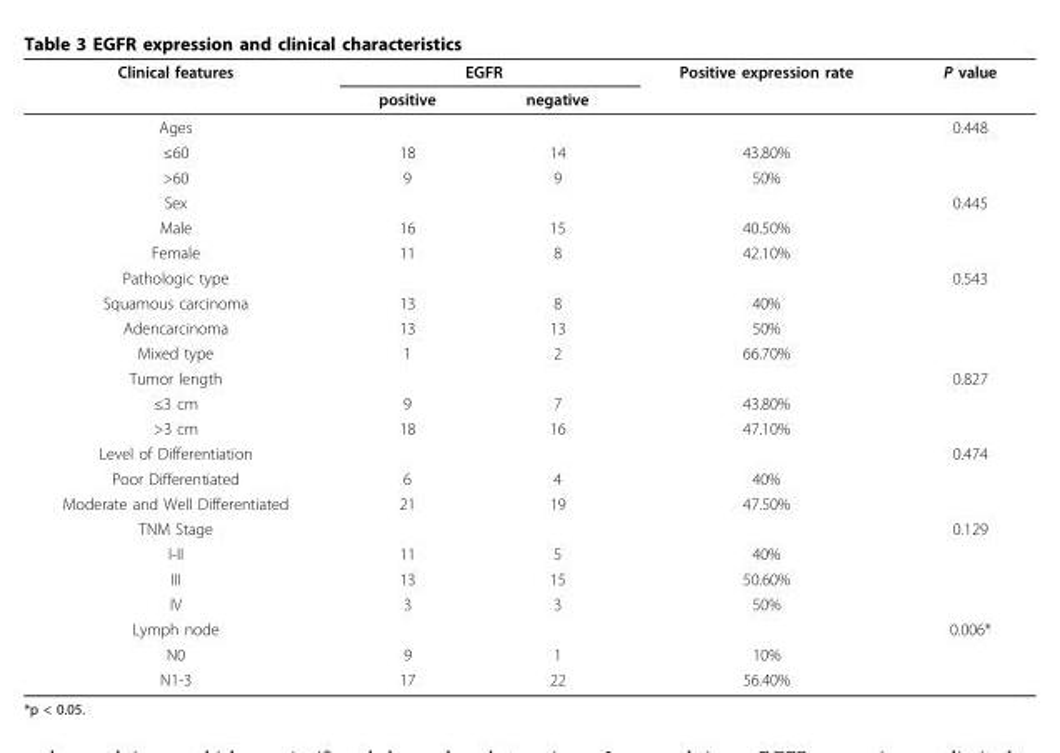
<table><thead><tr><td rowspan="2">Clinical features</td><td colspan="2">EGFR</td><td rowspan="2">Positive expression rate</td><td rowspan="2">P value</td></tr><tr><td>positive</td><td>negative</td></tr></thead><tbody><tr><td>Ages</td><td></td><td></td><td></td><td>0.448</td></tr><tr><td>≤60</td><td>18</td><td>14</td><td>43.80%</td><td></td></tr><tr><td>&gt;60</td><td>9</td><td>9</td><td>50%</td><td></td></tr><tr><td>Sex</td><td></td><td></td><td></td><td>0.445</td></tr><tr><td>Male</td><td>16</td><td>15</td><td>40.50%</td><td></td></tr><tr><td>Female</td><td>11</td><td>8</td><td>42.10%</td><td></td></tr><tr><td>Pathologic type</td><td></td><td></td><td></td><td>0.543</td></tr><tr><td>Squamous carcinoma</td><td>13</td><td>8</td><td>40%</td><td></td></tr><tr><td>Adencarcinoma</td><td>13</td><td>13</td><td>50%</td><td></td></tr><tr><td>Mixed type</td><td>1</td><td>2</td><td>66.70%</td><td></td></tr><tr><td>Tumor length</td><td></td><td></td><td></td><td>0.827</td></tr><tr><td>≤3 cm</td><td>9</td><td>7</td><td>43.80%</td><td></td></tr><tr><td>&gt;3 cm</td><td>18</td><td>16</td><td>47.10%</td><td></td></tr><tr><td>Level of Differentiation</td><td></td><td></td><td></td><td>0.474</td></tr><tr><td>Poor Differentiated</td><td>6</td><td>4</td><td>40%</td><td></td></tr><tr><td>Moderate and Well Differentiated</td><td>21</td><td>19</td><td>47.50%</td><td></td></tr><tr><td>TNM Stage</td><td></td><td></td><td></td><td>0.129</td></tr><tr><td>I-II</td><td>11</td><td>5</td><td>40%</td><td></td></tr><tr><td>III</td><td>13</td><td>15</td><td>50.60%</td><td></td></tr><tr><td>IV</td><td>3</td><td>3</td><td>50%</td><td></td></tr><tr><td>Lymph node</td><td></td><td></td><td></td><td>0.006*</td></tr><tr><td>N0</td><td>9</td><td>1</td><td>10%</td><td></td></tr><tr><td>N1-3</td><td>17</td><td>22</td><td>56.40%</td><td></td></tr></tbody></table>